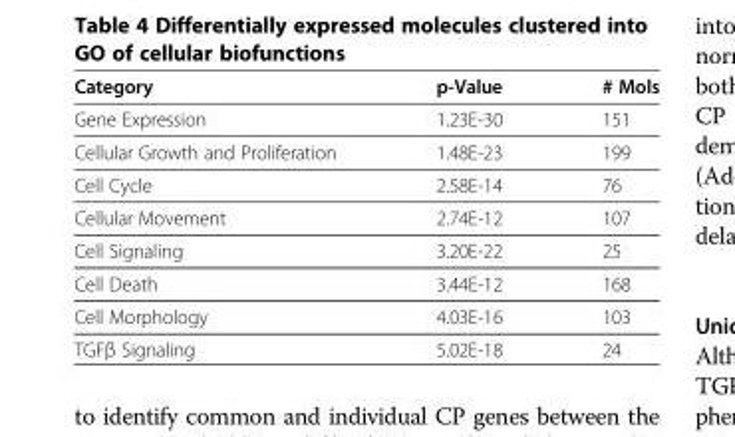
<table><thead><tr><td>Category</td><td>p-Value</td><td># Mols</td></tr></thead><tbody><tr><td>Gene Expression</td><td>1.23E-30</td><td>151</td></tr><tr><td>Cellular Growth and Proliferation</td><td>1.48E-23</td><td>199</td></tr><tr><td>Cell Cycle</td><td>2.58E-14</td><td>76</td></tr><tr><td>Cellular Movement</td><td>2.74E-12</td><td>107</td></tr><tr><td>Cell Signaling</td><td>3.20E-22</td><td>25</td></tr><tr><td>Cell Death</td><td>3.44E-12</td><td>168</td></tr><tr><td>Cell Morphology</td><td>4.03E-16</td><td>103</td></tr><tr><td>TGFβ Signaling</td><td>5.02E-18</td><td>24</td></tr></tbody></table>